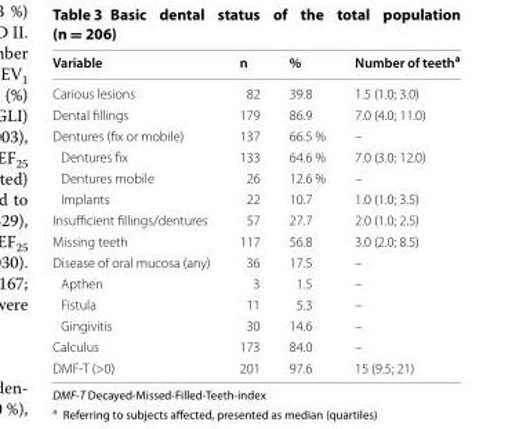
<table><thead><tr><td>Variable</td><td>n</td><td>%</td><td>Number of teeth<sup>a</sup></td></tr></thead><tbody><tr><td>Carious lesions</td><td>82</td><td>39.8</td><td>1.5 (1.0; 3.0)</td></tr><tr><td>Dental fillings</td><td>179</td><td>86.9</td><td>7.0 (4.0; 11.0)</td></tr><tr><td>Dentures (fix or mobile)</td><td>137</td><td>66.5 %</td><td>–</td></tr><tr><td>Dentures fix</td><td>133</td><td>64.6 %</td><td>7.0 (3.0; 12.0)</td></tr><tr><td>Dentures mobile</td><td>26</td><td>12.6 %</td><td>–</td></tr><tr><td>Implants</td><td>22</td><td>10.7</td><td>1.0 (1.0; 3.5)</td></tr><tr><td>Insufficient fillings/dentures</td><td>57</td><td>27.7</td><td>2.0 (1.0; 2.5)</td></tr><tr><td>Missing teeth</td><td>117</td><td>56.8</td><td>3.0 (2.0; 8.5)</td></tr><tr><td>Disease of oral mucosa (any)</td><td>36</td><td>17.5</td><td>–</td></tr><tr><td>Apthen</td><td>3</td><td>1.5</td><td>–</td></tr><tr><td>Fistula</td><td>11</td><td>5.3</td><td>–</td></tr><tr><td>Gingivitis</td><td>30</td><td>14.6</td><td>–</td></tr><tr><td>Calculus</td><td>173</td><td>84.0</td><td>–</td></tr><tr><td>DMF-T (&gt;0)</td><td>201</td><td>97.6</td><td>15 (9.5; 21)</td></tr></tbody></table>